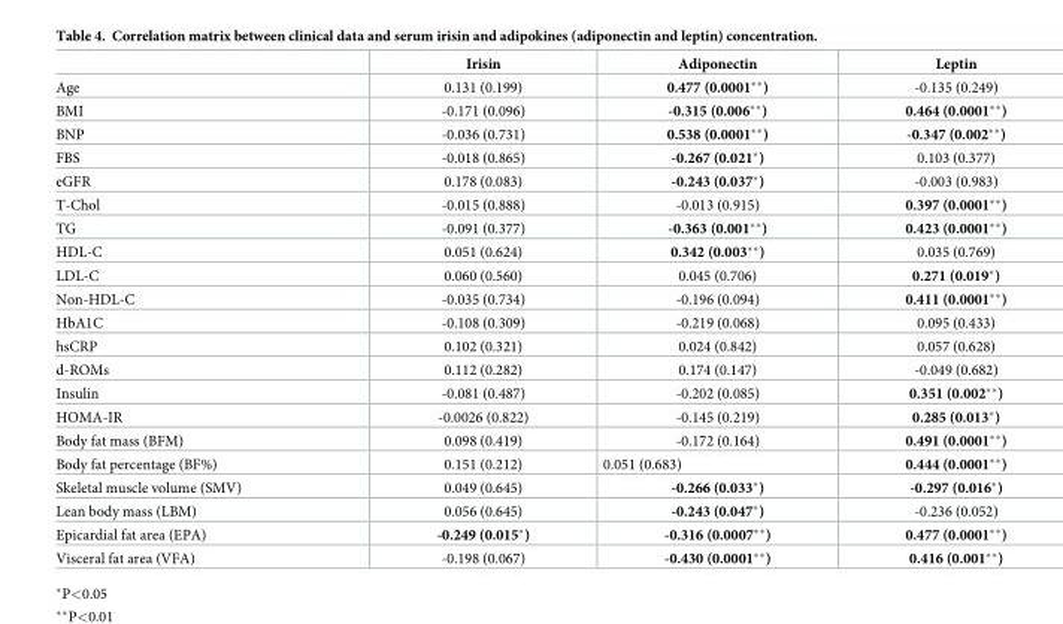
<table><thead><tr><td></td><td>Irisin</td><td>Adiponectin</td><td>Leptin</td></tr></thead><tbody><tr><td>Age</td><td>0.131 (0.199)</td><td>0.477 (0.0001**)</td><td>-0.135 (0.249)</td></tr><tr><td>BMI</td><td>-0.171 (0.096)</td><td>-0.315 (0.006**)</td><td>0.464 (0.0001**)</td></tr><tr><td>BNP</td><td>-0.036 (0.731)</td><td>0.538 (0.0001**)</td><td>-0.347 (0.002**)</td></tr><tr><td>FBS</td><td>-0.018 (0.865)</td><td>-0.267 (0.021*)</td><td>0.103 (0.377)</td></tr><tr><td>eGFR</td><td>0.178 (0.083)</td><td>-0.243 (0.037*)</td><td>-0.003 (0.983)</td></tr><tr><td>T-Chol</td><td>-0.015 (0.888)</td><td>-0.013 (0.915)</td><td>0.397 (0.0001**)</td></tr><tr><td>TG</td><td>-0.091 (0.377)</td><td>-0.363 (0.001**)</td><td>0.423 (0.0001**)</td></tr><tr><td>HDL-C</td><td>0.051 (0.624)</td><td>0.342 (0.003**)</td><td>0.035 (0.769)</td></tr><tr><td>LDL-C</td><td>0.060 (0.560)</td><td>0.045 (0.706)</td><td>0.271 (0.019*)</td></tr><tr><td>Non-HDL-C</td><td>-0.035 (0.734)</td><td>-0.196 (0.094)</td><td>0.411 (0.0001**)</td></tr><tr><td>HbA1C</td><td>-0.108 (0.309)</td><td>-0.219 (0.068)</td><td>0.095 (0.433)</td></tr><tr><td>hsCRP</td><td>0.102 (0.321)</td><td>0.024 (0.842)</td><td>0.057 (0.628)</td></tr><tr><td>d-ROMs</td><td>0.112 (0.282)</td><td>0.174 (0.147)</td><td>-0.049 (0.682)</td></tr><tr><td>Insulin</td><td>-0.081 (0.487)</td><td>-0.202 (0.085)</td><td>0.351 (0.002**)</td></tr><tr><td>HOMA-IR</td><td>-0.0026 (0.822)</td><td>-0.145 (0.219)</td><td>0.285 (0.013*)</td></tr><tr><td>Body fat mass (BFM)</td><td>0.098 (0.419)</td><td>-0.172 (0.164)</td><td>0.491 (0.0001**)</td></tr><tr><td>Body fat percentage (BF%)</td><td>0.151 (0.212)</td><td>0.051 (0.683)</td><td>0.444 (0.0001**)</td></tr><tr><td>Skeletal muscle volume (SMV)</td><td>0.049 (0.645)</td><td>-0.266 (0.033*)</td><td>-0.297 (0.016*)</td></tr><tr><td>Lean body mass (LBM)</td><td>0.056 (0.645)</td><td>-0.243 (0.047*)</td><td>-0.236 (0.052)</td></tr><tr><td>Epicardial fat area (EPA)</td><td>-0.249 (0.015*)</td><td>-0.316 (0.0007**)</td><td>0.477 (0.0001**)</td></tr><tr><td>Visceral fat area (VFA)</td><td>-0.198 (0.067)</td><td>-0.430 (0.0001**)</td><td>0.416 (0.001**)</td></tr></tbody></table>